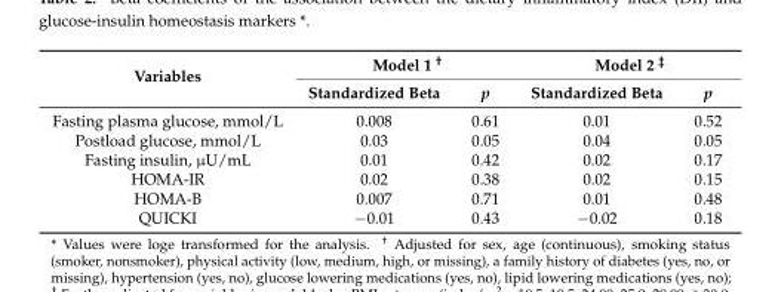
<table><thead><tr><td rowspan="2">Variables</td><td colspan="2">Model 1 <sup>†</sup></td><td colspan="2">Model 2 <sup>‡</sup></td></tr><tr><td>Standardized Beta</td><td>p</td><td>Standardized Beta</td><td>p</td></tr></thead><tbody><tr><td>Fasting plasma glucose, mmol/L</td><td>0.008</td><td>0.61</td><td>0.01</td><td>0.52</td></tr><tr><td>Postload glucose, mmol/L</td><td>0.03</td><td>0.05</td><td>0.04</td><td>0.05</td></tr><tr><td>Fasting insulin, µU/mL</td><td>0.01</td><td>0.42</td><td>0.02</td><td>0.17</td></tr><tr><td>HOMA-IR</td><td>0.02</td><td>0.38</td><td>0.02</td><td>0.15</td></tr><tr><td>HOMA-B</td><td>0.007</td><td>0.71</td><td>0.01</td><td>0.48</td></tr><tr><td>QUICKI</td><td>−0.01</td><td>0.43</td><td>−0.02</td><td>0.18</td></tr></tbody></table>